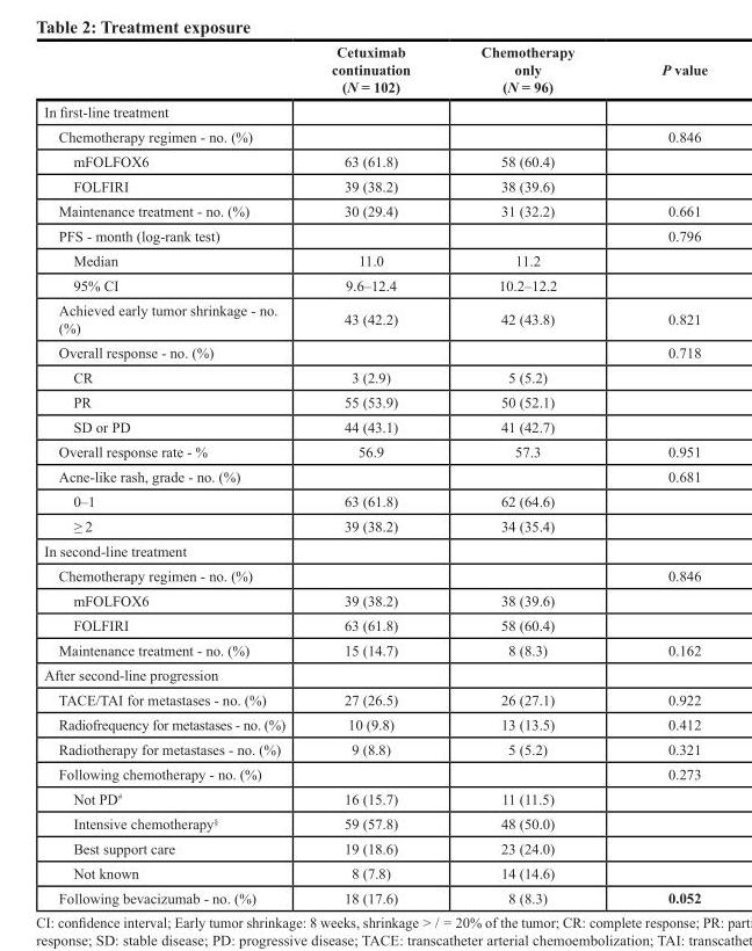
<table><thead><tr><td></td><td>Cetuximab continuation (N = 102)</td><td>Chemotherapy only (N = 96)</td><td>P value</td></tr></thead><tbody><tr><td colspan="4">In first-line treatment</td></tr><tr><td>Chemotherapy regimen - no. (%)</td><td></td><td></td><td>0.846</td></tr><tr><td>mFOLFOX6</td><td>63 (61.8)</td><td>58 (60.4)</td><td></td></tr><tr><td>FOLFIRI</td><td>39 (38.2)</td><td>38 (39.6)</td><td></td></tr><tr><td>Maintenance treatment - no. (%)</td><td>30 (29.4)</td><td>31 (32.2)</td><td>0.661</td></tr><tr><td>PFS - month (log-rank test)</td><td></td><td></td><td>0.796</td></tr><tr><td>Median</td><td>11.0</td><td>11.2</td><td></td></tr><tr><td>95% CI</td><td>9.6–12.4</td><td>10.2–12.2</td><td></td></tr><tr><td>Achieved early tumor shrinkage - no. (%)</td><td>43 (42.2)</td><td>42 (43.8)</td><td>0.821</td></tr><tr><td>Overall response - no. (%)</td><td></td><td></td><td>0.718</td></tr><tr><td>CR</td><td>3 (2.9)</td><td>5 (5.2)</td><td></td></tr><tr><td>PR</td><td>55 (53.9)</td><td>50 (52.1)</td><td></td></tr><tr><td>SD or PD</td><td>44 (43.1)</td><td>41 (42.7)</td><td></td></tr><tr><td>Overall response rate - %</td><td>56.9</td><td>57.3</td><td>0.951</td></tr><tr><td>Acne-like rash, grade - no. (%)</td><td></td><td></td><td>0.681</td></tr><tr><td>0–1</td><td>63 (61.8)</td><td>62 (64.6)</td><td></td></tr><tr><td>≥ 2</td><td>39 (38.2)</td><td>34 (35.4)</td><td></td></tr><tr><td colspan="4">In second-line treatment</td></tr><tr><td>Chemotherapy regimen - no. (%)</td><td></td><td></td><td>0.846</td></tr><tr><td>mFOLFOX6</td><td>39 (38.2)</td><td>38 (39.6)</td><td></td></tr><tr><td>FOLFIRI</td><td>63 (61.8)</td><td>58 (60.4)</td><td></td></tr><tr><td>Maintenance treatment - no. (%)</td><td>15 (14.7)</td><td>8 (8.3)</td><td>0.162</td></tr><tr><td colspan="4">After second-line progression</td></tr><tr><td>TACE/TAI for metastases - no. (%)</td><td>27 (26.5)</td><td>26 (27.1)</td><td>0.922</td></tr><tr><td>Radiofrequency for metastases - no. (%)</td><td>10 (9.8)</td><td>13 (13.5)</td><td>0.412</td></tr><tr><td>Radiotherapy for metastases - no. (%)</td><td>9 (8.8)</td><td>5 (5.2)</td><td>0.321</td></tr><tr><td>Following chemotherapy - no. (%)</td><td></td><td></td><td>0.273</td></tr><tr><td>Not PD<sup>#</sup></td><td>16 (15.7)</td><td>11 (11.5)</td><td></td></tr><tr><td>Intensive chemotherapy<sup>§</sup></td><td>59 (57.8)</td><td>48 (50.0)</td><td></td></tr><tr><td>Best support care</td><td>19 (18.6)</td><td>23 (24.0)</td><td></td></tr><tr><td>Not known</td><td>8 (7.8)</td><td>14 (14.6)</td><td></td></tr><tr><td>Following bevacizumab - no. (%)</td><td>18 (17.6)</td><td>8 (8.3)</td><td>0.052</td></tr></tbody></table>